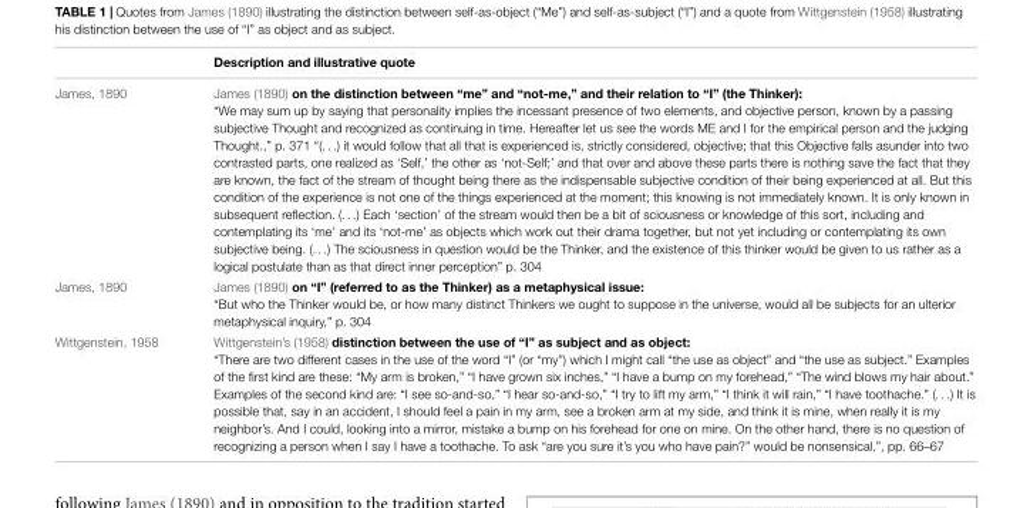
<table><thead><tr><td></td><td>Description and illustrative quote</td></tr></thead><tbody><tr><td>James, 1890</td><td>James (1890) on the distinction between “me” and “not-me,” and their relation to “I” (the Thinker): “We may sum up by saying that personality implies the incessant presence of two elements, and objective person, known by a passing subjective Thought and recognized as continuing in time. Hereafter let us see the words ME and I for the empirical person and the judging Thought.,” p. 371 “(. . .) it would follow that all that is experienced is, strictly considered, objective; that this Objective falls asunder into two contrasted parts, one realized as ‘Self,’ the other as ‘not-Self;’ and that over and above these parts there is nothing save the fact that they are known, the fact of the stream of thought being there as the indispensable subjective condition of their being experienced at all. But this condition of the experience is not one of the things experienced at the moment; this knowing is not immediately known. It is only known in subsequent reflection. (. . .) Each ‘section’ of the stream would then be a bit of sciousness or knowledge of this sort, including and contemplating its ‘me’ and its ‘not-me’ as objects which work out their drama together, but not yet including or contemplating its own subjective being. (. . .) The sciousness in question would be the Thinker, and the existence of this thinker would be given to us rather as a logical postulate than as that direct inner perception” p. 304</td></tr><tr><td>James, 1890</td><td>James (1890) on “I” (referred to as the Thinker) as a metaphysical issue: “But who the Thinker would be, or how many distinct Thinkers we ought to suppose in the universe, would all be subjects for an ulterior metaphysical inquiry,” p. 304</td></tr><tr><td>Wittgenstein, 1958</td><td>Wittgenstein’s (1958) distinction between the use of “I” as subject and as object: “There are two different cases in the use of the word “I” (or “my”) which I might call “the use as object” and “the use as subject.” Examples of the first kind are these: “My arm is broken,” “I have grown six inches,” “I have a bump on my forehead,” “The wind blows my hair about.” Examples of the second kind are: “I see so-and-so,” “I hear so-and-so,” “I try to lift my arm,” “I think it will rain,” “I have toothache.” (. . .) It is possible that, say in an accident, I should feel a pain in my arm, see a broken arm at my side, and think it is mine, when really it is my neighbor’s. And I could, looking into a mirror, mistake a bump on his forehead for one on mine. On the other hand, there is no question of recognizing a person when I say I have a toothache. To ask “are you sure it’s you who have pain?” would be nonsensical.”, pp. 66–67</td></tr></tbody></table>